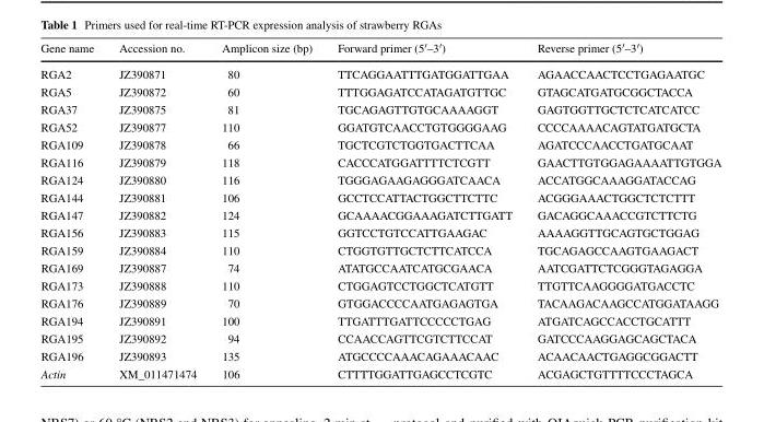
<table><thead><tr><td>Gene name</td><td>Accession no.</td><td>Amplicon size (bp)</td><td>Forward primer (5′–3′)</td><td>Reverse primer (5′–3′)</td></tr></thead><tbody><tr><td>RGA2</td><td>JZ390871</td><td>80</td><td>TTCAGGAATTTGATGGATTGAA</td><td>AGAACCAACTCCTGAGAATGC</td></tr><tr><td>RGA5</td><td>JZ390872</td><td>60</td><td>TTTGGAGATCCATAGATGTTGC</td><td>GTAGCATGATGCGGCTACCA</td></tr><tr><td>RGA37</td><td>JZ390875</td><td>81</td><td>TGCAGAGTTGTGCAAAAGGT</td><td>GAGTGGTTGCTCTCATCATCC</td></tr><tr><td>RGA52</td><td>JZ390877</td><td>110</td><td>GGATGTCAACCTGTGGGGAAG</td><td>CCCCAAAACAGTATGATGCTA</td></tr><tr><td>RGA109</td><td>JZ390878</td><td>66</td><td>TGCTCGTCTGGTGACTTCAA</td><td>AGATCCCAACCTGATGCAAT</td></tr><tr><td>RGA116</td><td>JZ390879</td><td>118</td><td>CACCCATGGATTTTCTCGTT</td><td>GAACTTGTGGAGAAAATTGTGGA</td></tr><tr><td>RGA124</td><td>JZ390880</td><td>116</td><td>TGGGAGAAGAGGGATCAACA</td><td>ACCATGGCAAAGGATACCAG</td></tr><tr><td>RGA144</td><td>JZ390881</td><td>106</td><td>GCCTCCATTACTGGCTTCTTC</td><td>ACGGGAAACTGGCTCTCTTT</td></tr><tr><td>RGA147</td><td>JZ390882</td><td>124</td><td>GCAAAACGGAAAGATCTTGATT</td><td>GACAGGCAAACCGTCTTCTG</td></tr><tr><td>RGA156</td><td>JZ390883</td><td>115</td><td>GGTCCTGTCCATTGAAGAC</td><td>AAAAGGTTGCAGTGCTGGAG</td></tr><tr><td>RGA159</td><td>JZ390884</td><td>110</td><td>CTGGTGTTGCTCTTCATCCA</td><td>TGCAGAGCCAAGTGAAGACT</td></tr><tr><td>RGA169</td><td>JZ390887</td><td>74</td><td>ATATGCCAATCATGCGAACA</td><td>AATCGATTCTCGGGTAGAGGA</td></tr><tr><td>RGA173</td><td>JZ390888</td><td>110</td><td>CTGGAGTCCTGGCTCATGTT</td><td>TTGTTCAAGGGGATGACCTC</td></tr><tr><td>RGA176</td><td>JZ390889</td><td>70</td><td>GTGGACCCCAATGAGAGTGA</td><td>TACAAGACAAGCCATGGATAAGG</td></tr><tr><td>RGA194</td><td>JZ390891</td><td>100</td><td>TTGATTTGATTCCCCCTGAG</td><td>ATGATCAGCCACCTGCATTT</td></tr><tr><td>RGA195</td><td>JZ390892</td><td>94</td><td>CCAACCAGTTCGTCTTCCAT</td><td>GATCCCAAGGAGCAGCTACA</td></tr><tr><td>RGA196</td><td>JZ390893</td><td>135</td><td>ATGCCCCAAACAGAAACAAC</td><td>ACAACAACTGAGGCGGACTT</td></tr><tr><td>Actin</td><td>XM_011471474</td><td>106</td><td>CTTTTGGATTGAGCCTCGTC</td><td>ACGAGCTGTTTTCCCTAGCA</td></tr></tbody></table>